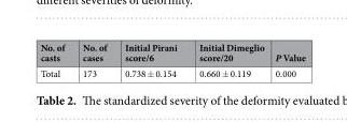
<table><thead><tr><td>No. of casts</td><td>No. of cases</td><td>Initial Pirani score/6</td><td>Initial Dimeglio score/20</td><td>P Value</td></tr></thead><tbody><tr><td>Total</td><td>173</td><td>0.738 ± 0.154</td><td>0.660 ± 0.119</td><td>0.000</td></tr></tbody></table>